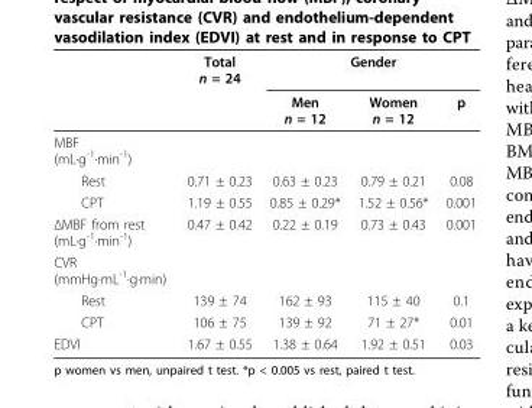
<table><thead><tr><td rowspan="2"></td><td rowspan="2">Total n = 24</td><td colspan="3">Gender</td></tr><tr><td>Men n = 12</td><td>Women n = 12</td><td>p</td></tr></thead><tbody><tr><td colspan="5">MBF (mL·g<sup>-1</sup>·min<sup>-1</sup>)</td></tr><tr><td>Rest</td><td>0.71 ± 0.23</td><td>0.63 ± 0.23</td><td>0.79 ± 0.21</td><td>0.08</td></tr><tr><td>CPT</td><td>1.19 ± 0.55</td><td>0.85 ± 0.29*</td><td>1.52 ± 0.56*</td><td>0.001</td></tr><tr><td>ΔMBF from rest (mL·g<sup>-1</sup>·min<sup>-1</sup>)</td><td>0.47 ± 0.42</td><td>0.22 ± 0.19</td><td>0.73 ± 0.43</td><td>0.001</td></tr><tr><td colspan="5">CVR (mmHg·mL<sup>-1</sup>·g·min)</td></tr><tr><td>Rest</td><td>139 ± 74</td><td>162 ± 93</td><td>115 ± 40</td><td>0.1</td></tr><tr><td>CPT</td><td>106 ± 75</td><td>139 ± 92</td><td>71 ± 27*</td><td>0.01</td></tr><tr><td>EDVI</td><td>1.67 ± 0.55</td><td>1.38 ± 0.64</td><td>1.92 ± 0.51</td><td>0.03</td></tr></tbody></table>